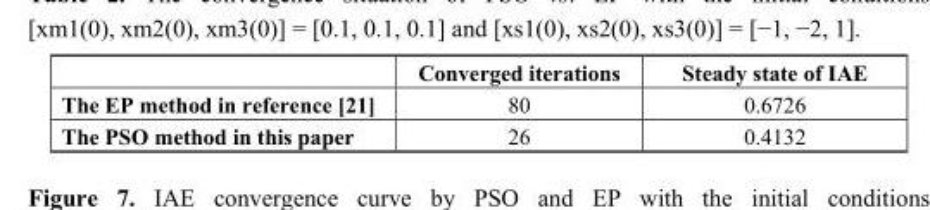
<table><thead><tr><td></td><td>Converged iterations</td><td>Steady state of IAE</td></tr></thead><tbody><tr><td>The EP method in reference [21]</td><td>80</td><td>0.6726</td></tr><tr><td>The PSO method in this paper</td><td>26</td><td>0.4132</td></tr></tbody></table>